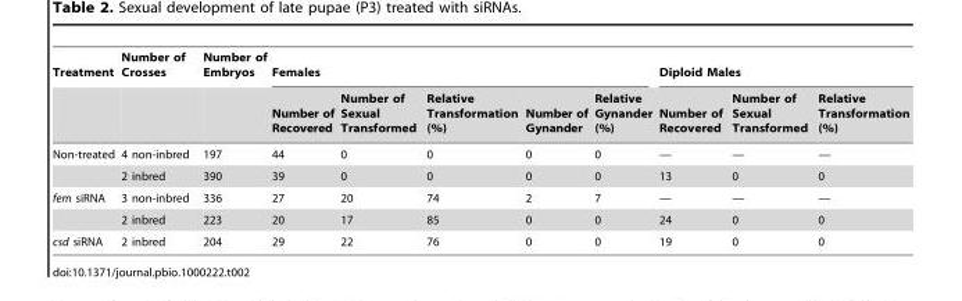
<table><thead><tr><td rowspan="2">Treatment</td><td rowspan="2">Number of Crosses</td><td rowspan="2">Number of Embryos</td><td colspan="5">Females</td><td colspan="3">Diploid Males</td></tr><tr><td>Number of Recovered</td><td>Number of Sexual Transformed</td><td>Relative Transformation (%)</td><td>Number of Gynander</td><td>Relative Gynander (%)</td><td>Number of Recovered</td><td>Number of Sexual Transformed</td><td>Relative Transformation (%)</td></tr></thead><tbody><tr><td rowspan="2">Non-treated</td><td>4 non-inbred</td><td>197</td><td>44</td><td>0</td><td>0</td><td>0</td><td>0</td><td>—</td><td>—</td><td>—</td></tr><tr><td>2 inbred</td><td>390</td><td>39</td><td>0</td><td>0</td><td>0</td><td>0</td><td>13</td><td>0</td><td>0</td></tr><tr><td rowspan="2">fem siRNA</td><td>3 non-inbred</td><td>336</td><td>27</td><td>20</td><td>74</td><td>2</td><td>7</td><td>—</td><td>—</td><td>—</td></tr><tr><td>2 inbred</td><td>223</td><td>20</td><td>17</td><td>85</td><td>0</td><td>0</td><td>24</td><td>0</td><td>0</td></tr><tr><td>csd siRNA</td><td>2 inbred</td><td>204</td><td>29</td><td>22</td><td>76</td><td>0</td><td>0</td><td>19</td><td>0</td><td>0</td></tr></tbody></table>